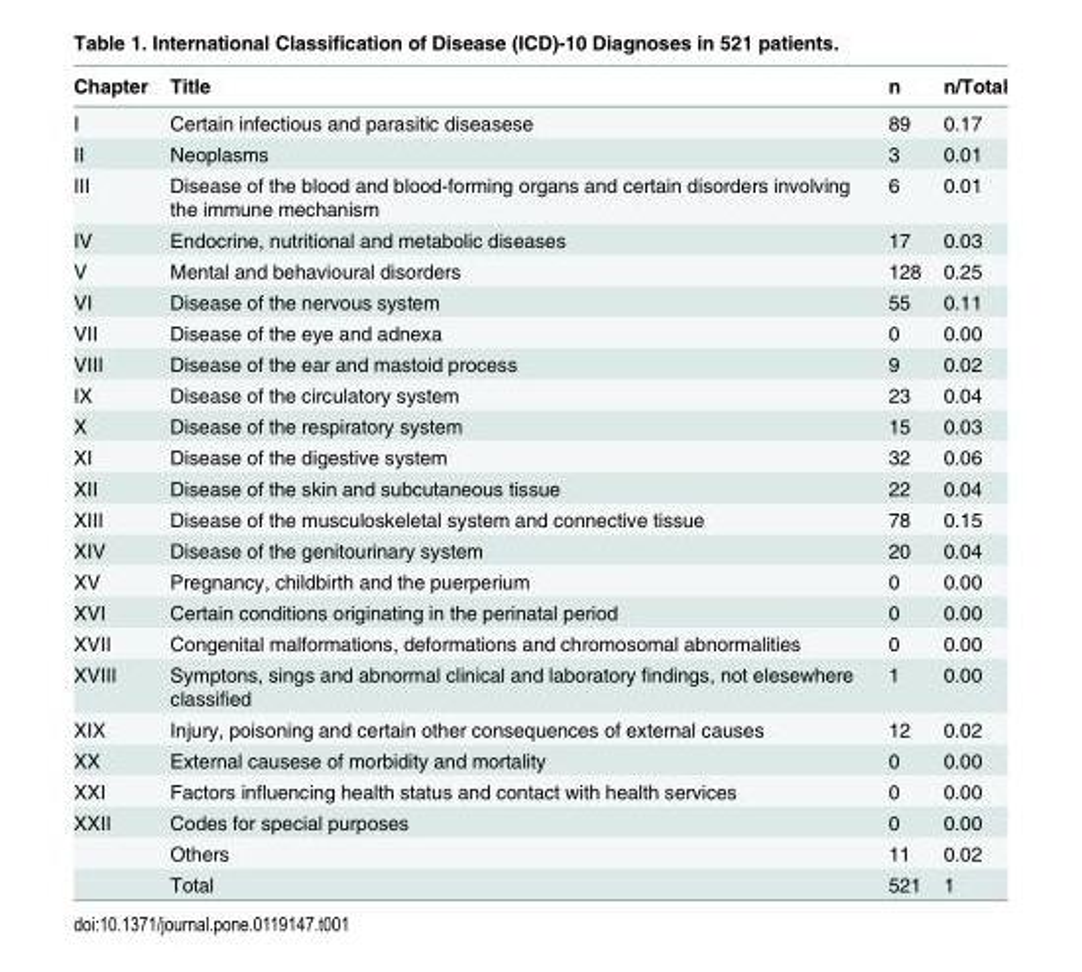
<table><thead><tr><td>Chapter</td><td>Title</td><td>n</td><td>n/Total</td></tr></thead><tbody><tr><td>I</td><td>Certain infectious and parasitic diseasese</td><td>89</td><td>0.17</td></tr><tr><td>II</td><td>Neoplasms</td><td>3</td><td>0.01</td></tr><tr><td>III</td><td>Disease of the blood and blood-forming organs and certain disorders involving the immune mechanism</td><td>6</td><td>0.01</td></tr><tr><td>IV</td><td>Endocrine, nutritional and metabolic diseases</td><td>17</td><td>0.03</td></tr><tr><td>V</td><td>Mental and behavioural disorders</td><td>128</td><td>0.25</td></tr><tr><td>VI</td><td>Disease of the nervous system</td><td>55</td><td>0.11</td></tr><tr><td>VII</td><td>Disease of the eye and adnexa</td><td>0</td><td>0.00</td></tr><tr><td>VIII</td><td>Disease of the ear and mastoid process</td><td>9</td><td>0.02</td></tr><tr><td>IX</td><td>Disease of the circulatory system</td><td>23</td><td>0.04</td></tr><tr><td>X</td><td>Disease of the respiratory system</td><td>15</td><td>0.03</td></tr><tr><td>XI</td><td>Disease of the digestive system</td><td>32</td><td>0.06</td></tr><tr><td>XII</td><td>Disease of the skin and subcutaneous tissue</td><td>22</td><td>0.04</td></tr><tr><td>XIII</td><td>Disease of the musculoskeletal system and connective tissue</td><td>78</td><td>0.15</td></tr><tr><td>XIV</td><td>Disease of the genitourinary system</td><td>20</td><td>0.04</td></tr><tr><td>XV</td><td>Pregnancy, childbirth and the puerperium</td><td>0</td><td>0.00</td></tr><tr><td>XVI</td><td>Certain conditions originating in the perinatal period</td><td>0</td><td>0.00</td></tr><tr><td>XVII</td><td>Congenital malformations, deformations and chromosomal abnormalities</td><td>0</td><td>0.00</td></tr><tr><td>XVIII</td><td>Symptons, sings and abnormal clinical and laboratory findings, not elesewhere classified</td><td>1</td><td>0.00</td></tr><tr><td>XIX</td><td>Injury, poisoning and certain other consequences of external causes</td><td>12</td><td>0.02</td></tr><tr><td>XX</td><td>External causese of morbidity and mortality</td><td>0</td><td>0.00</td></tr><tr><td>XXI</td><td>Factors influencing health status and contact with health services</td><td>0</td><td>0.00</td></tr><tr><td rowspan="3">XXII</td><td>Codes for special purposes</td><td>0</td><td>0.00</td></tr><tr><td>Others</td><td>11</td><td>0.02</td></tr><tr><td>Total</td><td>521</td><td>1</td></tr></tbody></table>